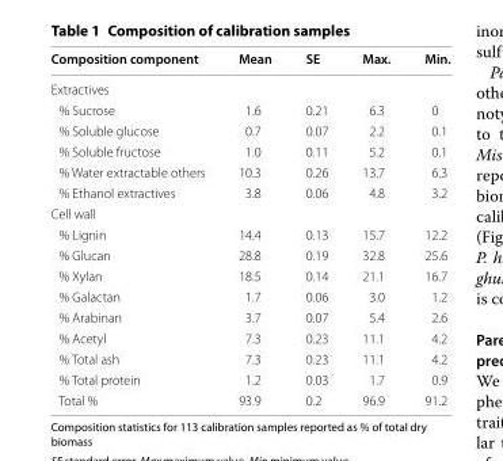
<table><thead><tr><td>Composition component</td><td>Mean</td><td>SE</td><td>Max.</td><td>Min.</td></tr></thead><tbody><tr><td colspan="5">Extractives</td></tr><tr><td>% Sucrose</td><td>1.6</td><td>0.21</td><td>6.3</td><td>0</td></tr><tr><td>% Soluble glucose</td><td>0.7</td><td>0.07</td><td>2.2</td><td>0.1</td></tr><tr><td>% Soluble fructose</td><td>1.0</td><td>0.11</td><td>5.2</td><td>0.1</td></tr><tr><td>% Water extractable others</td><td>10.3</td><td>0.26</td><td>13.7</td><td>6.3</td></tr><tr><td>% Ethanol extractives</td><td>3.8</td><td>0.06</td><td>4.8</td><td>3.2</td></tr><tr><td colspan="5">Cell wall</td></tr><tr><td>% Lignin</td><td>14.4</td><td>0.13</td><td>15.7</td><td>12.2</td></tr><tr><td>% Glucan</td><td>28.8</td><td>0.19</td><td>32.8</td><td>25.6</td></tr><tr><td>% Xylan</td><td>18.5</td><td>0.14</td><td>21.1</td><td>16.7</td></tr><tr><td>% Galactan</td><td>1.7</td><td>0.06</td><td>3.0</td><td>1.2</td></tr><tr><td>% Arabinan</td><td>3.7</td><td>0.07</td><td>5.4</td><td>2.6</td></tr><tr><td>% Acetyl</td><td>7.3</td><td>0.23</td><td>11.1</td><td>4.2</td></tr><tr><td>% Total ash</td><td>7.3</td><td>0.23</td><td>11.1</td><td>4.2</td></tr><tr><td>% Total protein</td><td>1.2</td><td>0.03</td><td>1.7</td><td>0.9</td></tr><tr><td>Total %</td><td>93.9</td><td>0.2</td><td>96.9</td><td>91.2</td></tr></tbody></table>